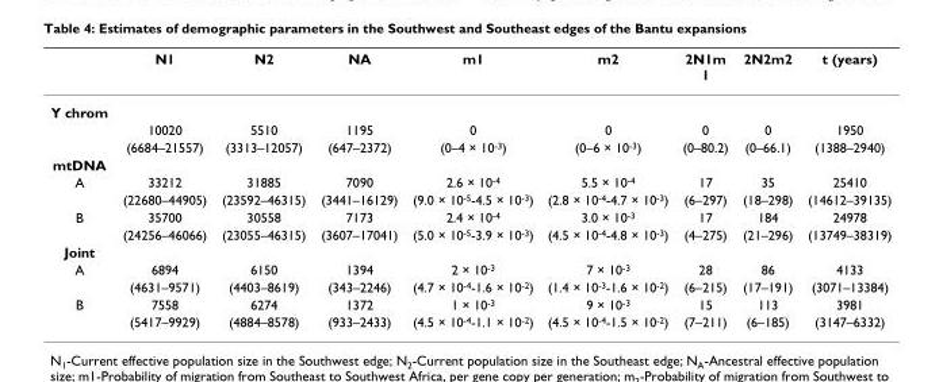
<table><thead><tr><td></td><td>N1</td><td>N2</td><td>NA</td><td>m1</td><td>m2</td><td>2N1m 1</td><td>2N2m2</td><td>t (years)</td></tr></thead><tbody><tr><td colspan="9">Y chrom</td></tr><tr><td></td><td>10020</td><td>5510</td><td>1195</td><td>0</td><td>0</td><td>0</td><td>0</td><td>1950</td></tr><tr><td></td><td>(6684–21557)</td><td>(3313–12057)</td><td>(647–2372)</td><td>(0–4 × 10<sup>-3</sup>)</td><td>(0–6 × 10<sup>-3</sup>)</td><td>(0–80.2)</td><td>(0–66.1)</td><td>(1388–2940)</td></tr><tr><td colspan="9">mtDNA</td></tr><tr><td rowspan="2">A</td><td>33212</td><td>31885</td><td>7090</td><td>2.6 × 10<sup>-4</sup></td><td>5.5 × 10<sup>-4</sup></td><td>17</td><td>35</td><td>25410</td></tr><tr><td>(22680–44905)</td><td>(23592–46315)</td><td>(3441–16129)</td><td>(9.0 × 10<sup>-5</sup>-4.5 × 10<sup>-3</sup>)</td><td>(2.8 × 10<sup>-4</sup>-4.7 × 10<sup>-3</sup>)</td><td>(6–297)</td><td>(18–298)</td><td>(14612–39135)</td></tr><tr><td rowspan="2">B</td><td>35700</td><td>30558</td><td>7173</td><td>2.4 × 10<sup>-4</sup></td><td>3.0 × 10<sup>-3</sup></td><td>17</td><td>184</td><td>24978</td></tr><tr><td>(24256–46066)</td><td>(23055–46315)</td><td>(3607–17041)</td><td>(5.0 × 10<sup>-5</sup>-3.9 × 10<sup>-3</sup>)</td><td>(4.5 × 10<sup>-4</sup>-4.8 × 10<sup>-3</sup>)</td><td>(4–275)</td><td>(21–296)</td><td>(13749–38319)</td></tr><tr><td colspan="9">Joint</td></tr><tr><td rowspan="2">A</td><td>6894</td><td>6150</td><td>1394</td><td>2 × 10<sup>-3</sup></td><td>7 × 10<sup>-3</sup></td><td>28</td><td>86</td><td>4133</td></tr><tr><td>(4631–9571)</td><td>(4403–8619)</td><td>(343–2246)</td><td>(4.7 × 10<sup>-4</sup>-1.6 × 10<sup>-2</sup>)</td><td>(1.4 × 10<sup>-3</sup>-1.6 × 10<sup>-2</sup>)</td><td>(6–215)</td><td>(17–191)</td><td>(3071–13384)</td></tr><tr><td rowspan="2">B</td><td>7558</td><td>6274</td><td>1372</td><td>1 × 10<sup>-3</sup></td><td>9 × 10<sup>-3</sup></td><td>15</td><td>113</td><td>3981</td></tr><tr><td>(5417–9929)</td><td>(4884–8578)</td><td>(933–2433)</td><td>(4.5 × 10<sup>-4</sup>-1.1 × 10<sup>-2</sup>)</td><td>(4.5 × 10<sup>-4</sup>-1.5 × 10<sup>-2</sup>)</td><td>(7–211)</td><td>(6–185)</td><td>(3147–6332)</td></tr></tbody></table>